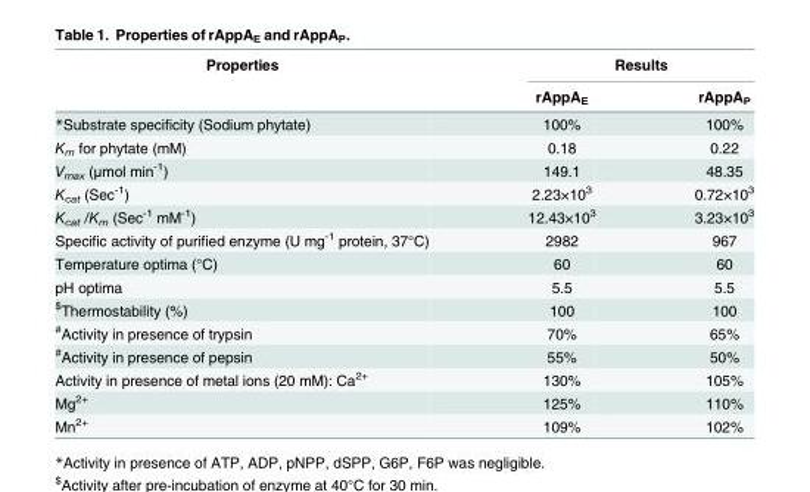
<table><thead><tr><td rowspan="2">Properties</td><td colspan="2">Results</td></tr><tr><td>rAppA<sub>E</sub></td><td>rAppA<sub>P</sub></td></tr></thead><tbody><tr><td>*Substrate specificity (Sodium phytate)</td><td>100%</td><td>100%</td></tr><tr><td>K<sub>m</sub> for phytate (mM)</td><td>0.18</td><td>0.22</td></tr><tr><td>V<sub>max</sub> (μmol min<sup>-1</sup>)</td><td>149.1</td><td>48.35</td></tr><tr><td>K<sub>cat</sub> (Sec<sup>-1</sup>)</td><td>2.23×10<sup>3</sup></td><td>0.72×10<sup>3</sup></td></tr><tr><td>K<sub>cat</sub> /K<sub>m</sub> (Sec<sup>-1</sup> mM<sup>-1</sup>)</td><td>12.43×10<sup>3</sup></td><td>3.23×10<sup>3</sup></td></tr><tr><td>Specific activity of purified enzyme (U mg<sup>-1</sup> protein, 37°C)</td><td>2982</td><td>967</td></tr><tr><td>Temperature optima (°C)</td><td>60</td><td>60</td></tr><tr><td>pH optima</td><td>5.5</td><td>5.5</td></tr><tr><td><sup>$</sup>Thermostability (%)</td><td>100</td><td>100</td></tr><tr><td><sup>#</sup>Activity in presence of trypsin</td><td>70%</td><td>65%</td></tr><tr><td><sup>#</sup>Activity in presence of pepsin</td><td>55%</td><td>50%</td></tr><tr><td>Activity in presence of metal ions (20 mM): Ca<sup>2+</sup></td><td>130%</td><td>105%</td></tr><tr><td>Mg<sup>2+</sup></td><td>125%</td><td>110%</td></tr><tr><td>Mn<sup>2+</sup></td><td>109%</td><td>102%</td></tr></tbody></table>